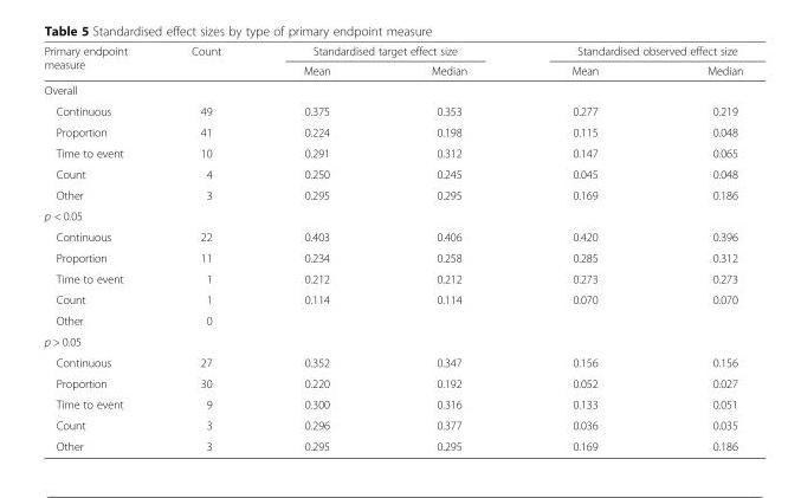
<table><thead><tr><td rowspan="2">Primary endpoint measure</td><td rowspan="2">Count</td><td colspan="2">Standardised target effect size</td><td colspan="2">Standardised observed effect size</td></tr><tr><td>Mean</td><td>Median</td><td>Mean</td><td>Median</td></tr></thead><tbody><tr><td colspan="6">Overall</td></tr><tr><td>Continuous</td><td>49</td><td>0.375</td><td>0.353</td><td>0.277</td><td>0.219</td></tr><tr><td>Proportion</td><td>41</td><td>0.224</td><td>0.198</td><td>0.115</td><td>0.048</td></tr><tr><td>Time to event</td><td>10</td><td>0.291</td><td>0.312</td><td>0.147</td><td>0.065</td></tr><tr><td>Count</td><td>4</td><td>0.250</td><td>0.245</td><td>0.045</td><td>0.048</td></tr><tr><td>Other</td><td>3</td><td>0.295</td><td>0.295</td><td>0.169</td><td>0.186</td></tr><tr><td colspan="6">p &lt; 0.05</td></tr><tr><td>Continuous</td><td>22</td><td>0.403</td><td>0.406</td><td>0.420</td><td>0.396</td></tr><tr><td>Proportion</td><td>11</td><td>0.234</td><td>0.258</td><td>0.285</td><td>0.312</td></tr><tr><td>Time to event</td><td>1</td><td>0.212</td><td>0.212</td><td>0.273</td><td>0.273</td></tr><tr><td>Count</td><td>1</td><td>0.114</td><td>0.114</td><td>0.070</td><td>0.070</td></tr><tr><td>Other</td><td>0</td><td></td><td></td><td></td><td></td></tr><tr><td colspan="6">p &gt; 0.05</td></tr><tr><td>Continuous</td><td>27</td><td>0.352</td><td>0.347</td><td>0.156</td><td>0.156</td></tr><tr><td>Proportion</td><td>30</td><td>0.220</td><td>0.192</td><td>0.052</td><td>0.027</td></tr><tr><td>Time to event</td><td>9</td><td>0.300</td><td>0.316</td><td>0.133</td><td>0.051</td></tr><tr><td>Count</td><td>3</td><td>0.296</td><td>0.377</td><td>0.036</td><td>0.035</td></tr><tr><td>Other</td><td>3</td><td>0.295</td><td>0.295</td><td>0.169</td><td>0.186</td></tr></tbody></table>